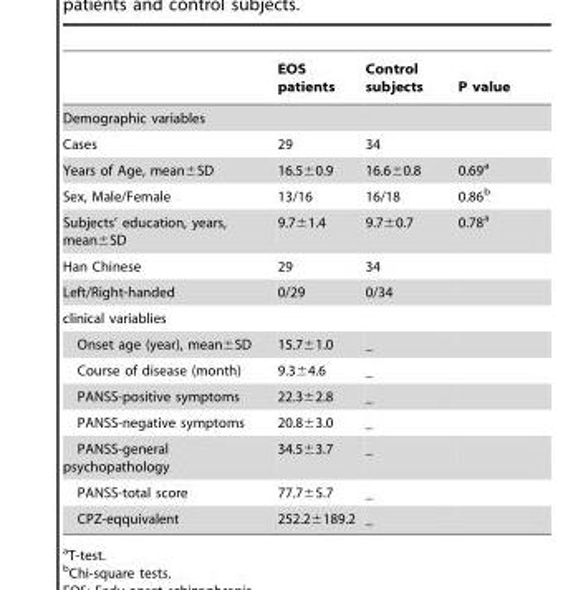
<table><thead><tr><td></td><td>EOS patients</td><td>Control subjects</td><td>P value</td></tr></thead><tbody><tr><td colspan="4">Demographic variables</td></tr><tr><td>Cases</td><td>29</td><td>34</td><td></td></tr><tr><td>Years of Age, mean±SD</td><td>16.5±0.9</td><td>16.6±0.8</td><td>0.69<sup>a</sup></td></tr><tr><td>Sex, Male/Female</td><td>13/16</td><td>16/18</td><td>0.86<sup>b</sup></td></tr><tr><td>Subjects’ education, years, mean±SD</td><td>9.7±1.4</td><td>9.7±0.7</td><td>0.78<sup>a</sup></td></tr><tr><td>Han Chinese</td><td>29</td><td>34</td><td></td></tr><tr><td>Left/Right-handed</td><td>0/29</td><td>0/34</td><td></td></tr><tr><td colspan="4">clinical variablies</td></tr><tr><td>Onset age (year), mean±SD</td><td>15.7±1.0</td><td>―</td><td></td></tr><tr><td>Course of disease (month)</td><td>9.3±4.6</td><td>―</td><td></td></tr><tr><td>PANSS-positive symptoms</td><td>22.3±2.8</td><td>―</td><td></td></tr><tr><td>PANSS-negative symptoms</td><td>20.8±3.0</td><td>―</td><td></td></tr><tr><td>PANSS-general psychopathology</td><td>34.5±3.7</td><td>―</td><td></td></tr><tr><td>PANSS-total score</td><td>77.7±5.7</td><td>―</td><td></td></tr><tr><td>CPZ-eqquivalent</td><td>252.2±189.2</td><td>―</td><td></td></tr></tbody></table>